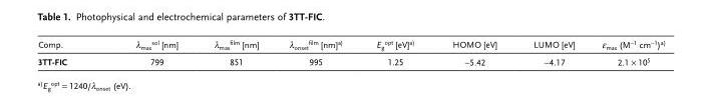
<table><thead><tr><td>Comp.</td><td>λ<sub>max</sub><sup>sol</sup> [nm]</td><td>λ<sub>max</sub><sup>film</sup> [nm]</td><td>λ<sub>onset</sub><sup>film</sup> [nm]a)</td><td>E<sub>g</sub><sup>opt</sup> [eV]a)</td><td>HOMO [eV]</td><td>LUMO [eV]</td><td>ε<sub>max</sub> (M<sup>−1</sup> cm<sup>−1</sup>)a)</td></tr></thead><tbody><tr><td>3TT-FIC</td><td>799</td><td>851</td><td>995</td><td>1.25</td><td>−5.42</td><td>−4.17</td><td>2.1 × 10<sup>5</sup></td></tr></tbody></table>